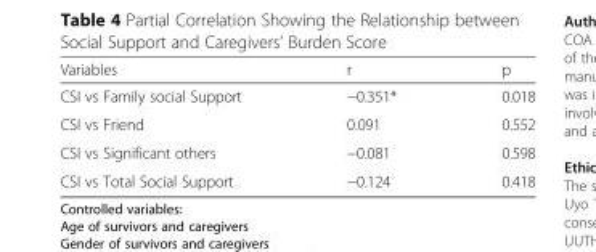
<table><thead><tr><td>Variables</td><td>r</td><td>p</td></tr></thead><tbody><tr><td>CSI vs Family social Support</td><td>−0.351*</td><td>0.018</td></tr><tr><td>CSI vs Friend</td><td>0.091</td><td>0.552</td></tr><tr><td>CSI vs Significant others</td><td>−0.081</td><td>0.598</td></tr><tr><td>CSI vs Total Social Support</td><td>−0.124</td><td>0.418</td></tr></tbody></table>